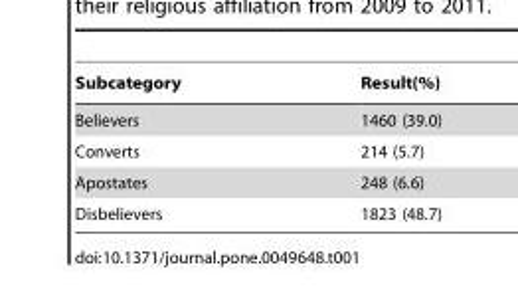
<table><thead><tr><td>Subcategory</td><td>Result(%)</td></tr></thead><tbody><tr><td>Believers</td><td>1460 (39.0)</td></tr><tr><td>Converts</td><td>214 (5.7)</td></tr><tr><td>Apostates</td><td>248 (6.6)</td></tr><tr><td>Disbelievers</td><td>1823 (48.7)</td></tr></tbody></table>